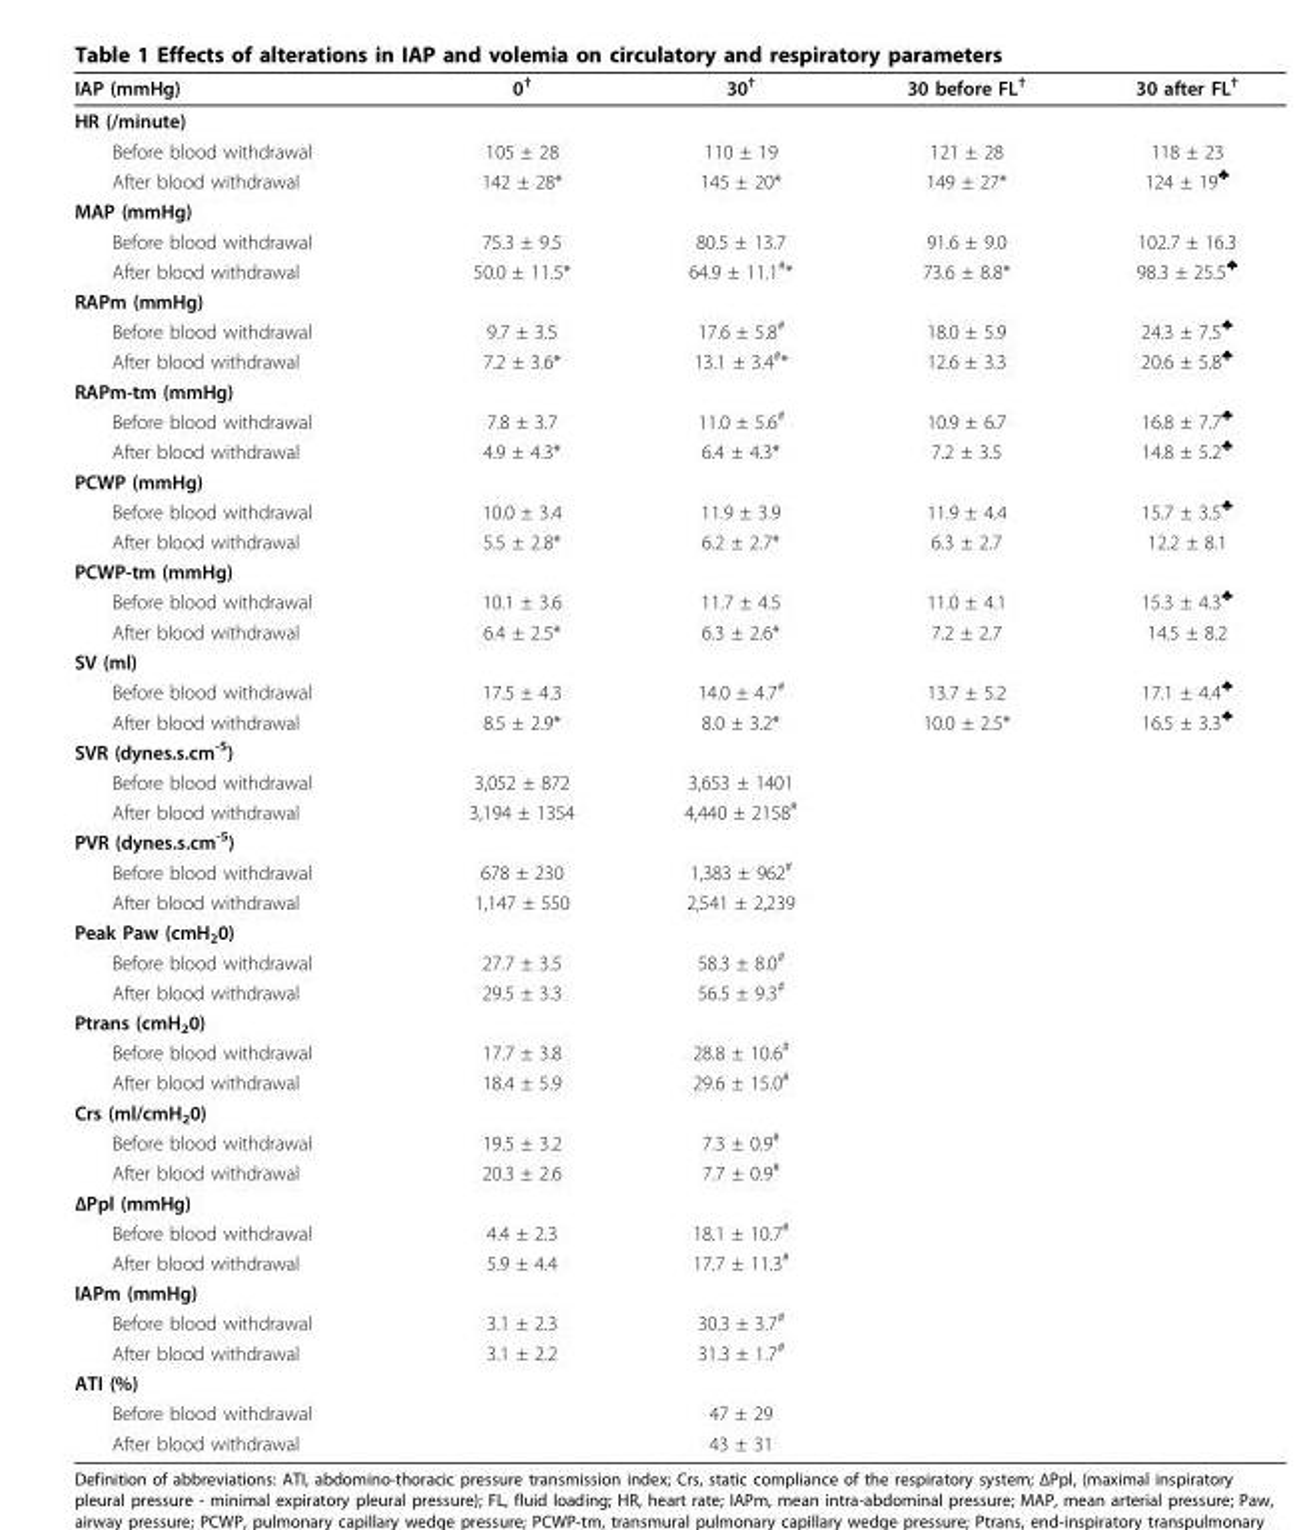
<table><thead><tr><td>IAP (mmHg)</td><td>0<sup>†</sup></td><td>30<sup>†</sup></td><td>30 before FL<sup>†</sup></td><td>30 after FL<sup>†</sup></td></tr></thead><tbody><tr><td colspan="5">HR (/minute)</td></tr><tr><td>Before blood withdrawal</td><td>105 ± 28</td><td>110 ± 19</td><td>121 ± 28</td><td>118 ± 23</td></tr><tr><td>After blood withdrawal</td><td>142 ± 28*</td><td>145 ± 20*</td><td>149 ± 27*</td><td>124 ± 19<sup>♣</sup></td></tr><tr><td colspan="5">MAP (mmHg)</td></tr><tr><td>Before blood withdrawal</td><td>75.3 ± 9.5</td><td>80.5 ± 13.7</td><td>91.6 ± 9.0</td><td>102.7 ± 16.3</td></tr><tr><td>After blood withdrawal</td><td>50.0 ± 11.5*</td><td>64.9 ± 11.1<sup>#</sup>*</td><td>73.6 ± 8.8*</td><td>98.3 ± 25.5<sup>♣</sup></td></tr><tr><td colspan="5">RAPm (mmHg)</td></tr><tr><td>Before blood withdrawal</td><td>9.7 ± 3.5</td><td>17.6 ± 5.8<sup>#</sup></td><td>18.0 ± 5.9</td><td>24.3 ± 7.5<sup>♣</sup></td></tr><tr><td>After blood withdrawal</td><td>7.2 ± 3.6*</td><td>13.1 ± 3.4<sup>#</sup>*</td><td>12.6 ± 3.3</td><td>20.6 ± 5.8<sup>♣</sup></td></tr><tr><td colspan="5">RAPm-tm (mmHg)</td></tr><tr><td>Before blood withdrawal</td><td>7.8 ± 3.7</td><td>11.0 ± 5.6<sup>#</sup></td><td>10.9 ± 6.7</td><td>16.8 ± 7.7<sup>♣</sup></td></tr><tr><td>After blood withdrawal</td><td>4.9 ± 4.3*</td><td>6.4 ± 4.3*</td><td>7.2 ± 3.5</td><td>14.8 ± 5.2<sup>♣</sup></td></tr><tr><td colspan="5">PCWP (mmHg)</td></tr><tr><td>Before blood withdrawal</td><td>10.0 ± 3.4</td><td>11.9 ± 3.9</td><td>11.9 ± 4.4</td><td>15.7 ± 3.5<sup>♣</sup></td></tr><tr><td>After blood withdrawal</td><td>5.5 ± 2.8*</td><td>6.2 ± 2.7*</td><td>6.3 ± 2.7</td><td>12.2 ± 8.1</td></tr><tr><td colspan="5">PCWP-tm (mmHg)</td></tr><tr><td>Before blood withdrawal</td><td>10.1 ± 3.6</td><td>11.7 ± 4.5</td><td>11.0 ± 4.1</td><td>15.3 ± 4.3<sup>♣</sup></td></tr><tr><td>After blood withdrawal</td><td>6.4 ± 2.5*</td><td>6.3 ± 2.6*</td><td>7.2 ± 2.7</td><td>14.5 ± 8.2</td></tr><tr><td colspan="5">SV (ml)</td></tr><tr><td>Before blood withdrawal</td><td>17.5 ± 4.3</td><td>14.0 ± 4.7<sup>#</sup></td><td>13.7 ± 5.2</td><td>17.1 ± 4.4<sup>♣</sup></td></tr><tr><td>After blood withdrawal</td><td>8.5 ± 2.9*</td><td>8.0 ± 3.2*</td><td>10.0 ± 2.5*</td><td>16.5 ± 3.3<sup>♣</sup></td></tr><tr><td colspan="5">SVR (dynes.s.cm<sup>-5</sup>)</td></tr><tr><td>Before blood withdrawal</td><td>3,052 ± 872</td><td>3,653 ± 1401</td><td></td><td></td></tr><tr><td>After blood withdrawal</td><td>3,194 ± 1354</td><td>4,440 ± 2158<sup>#</sup></td><td></td><td></td></tr><tr><td colspan="5">PVR (dynes.s.cm<sup>-5</sup>)</td></tr><tr><td>Before blood withdrawal</td><td>678 ± 230</td><td>1,383 ± 962<sup>#</sup></td><td></td><td></td></tr><tr><td>After blood withdrawal</td><td>1,147 ± 550</td><td>2,541 ± 2,239</td><td></td><td></td></tr><tr><td colspan="5">Peak Paw (cmH<sub>2</sub>0)</td></tr><tr><td>Before blood withdrawal</td><td>27.7 ± 3.5</td><td>58.3 ± 8.0<sup>#</sup></td><td></td><td></td></tr><tr><td>After blood withdrawal</td><td>29.5 ± 3.3</td><td>56.5 ± 9.3<sup>#</sup></td><td></td><td></td></tr><tr><td colspan="5">Ptrans (cmH<sub>2</sub>0)</td></tr><tr><td>Before blood withdrawal</td><td>17.7 ± 3.8</td><td>28.8 ± 10.6<sup>#</sup></td><td></td><td></td></tr><tr><td>After blood withdrawal</td><td>18.4 ± 5.9</td><td>29.6 ± 15.0<sup>#</sup></td><td></td><td></td></tr><tr><td colspan="5">Crs (ml/cmH<sub>2</sub>0)</td></tr><tr><td>Before blood withdrawal</td><td>19.5 ± 3.2</td><td>7.3 ± 0.9<sup>#</sup></td><td></td><td></td></tr><tr><td>After blood withdrawal</td><td>20.3 ± 2.6</td><td>7.7 ± 0.9<sup>#</sup></td><td></td><td></td></tr><tr><td colspan="5">ΔPpl (mmHg)</td></tr><tr><td>Before blood withdrawal</td><td>4.4 ± 2.3</td><td>18.1 ± 10.7<sup>#</sup></td><td></td><td></td></tr><tr><td>After blood withdrawal</td><td>5.9 ± 4.4</td><td>17.7 ± 11.3<sup>#</sup></td><td></td><td></td></tr><tr><td colspan="5">IAPm (mmHg)</td></tr><tr><td>Before blood withdrawal</td><td>3.1 ± 2.3</td><td>30.3 ± 3.7<sup>#</sup></td><td></td><td></td></tr><tr><td>After blood withdrawal</td><td>3.1 ± 2.2</td><td>31.3 ± 1.7<sup>#</sup></td><td></td><td></td></tr><tr><td colspan="5">ATI (%)</td></tr><tr><td>Before blood withdrawal</td><td></td><td>47 ± 29</td><td></td><td></td></tr><tr><td>After blood withdrawal</td><td></td><td>43 ± 31</td><td></td><td></td></tr></tbody></table>